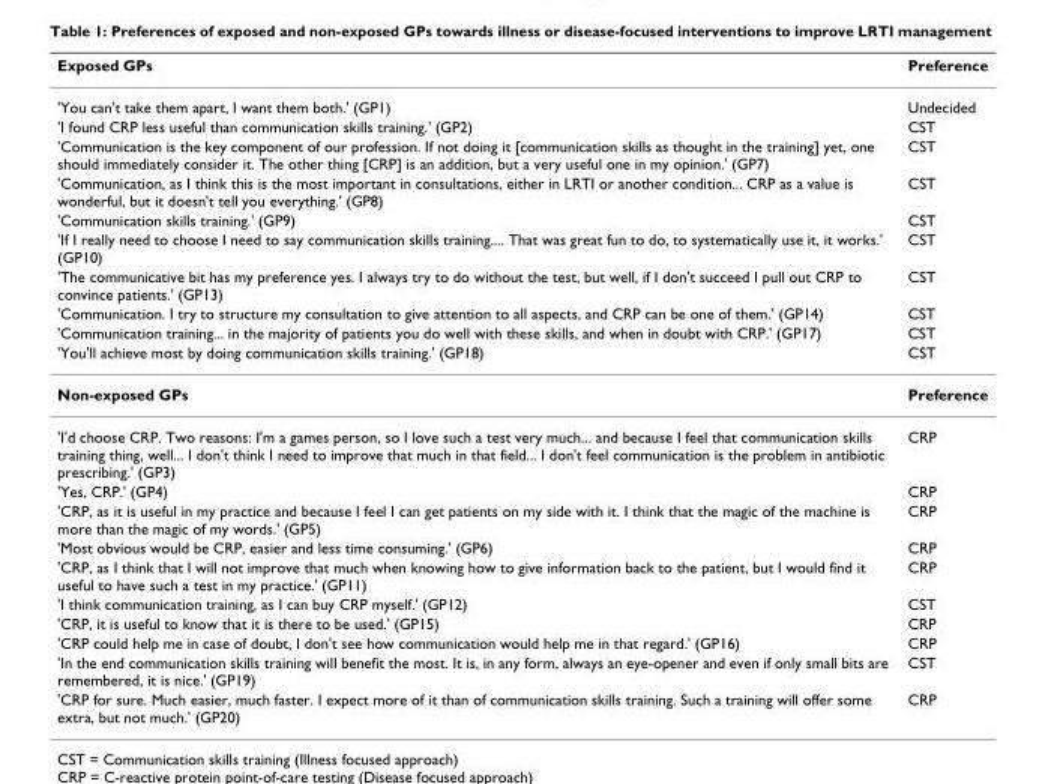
<table><thead><tr><td>Exposed GPs</td><td>Preference</td></tr></thead><tbody><tr><td>&#x27;You can&#x27;t take them apart, I want them both.&#x27; (GP1)</td><td>Undecided</td></tr><tr><td>&#x27;I found CRP less useful than communication skills training.&#x27; (GP2)</td><td>CST</td></tr><tr><td>&#x27;Communication is the key component of our profession. If not doing it [communication skills as thought in the training] yet, one should immediately consider it. The other thing [CRP] is an addition, but a very useful one in my opinion.&#x27; (GP7)</td><td>CST</td></tr><tr><td>&#x27;Communication, as I think this is the most important in consultations, either in LRTI or another condition... CRP as a value is wonderful, but it doesn&#x27;t tell you everything.&#x27; (GP8)</td><td>CST</td></tr><tr><td>&#x27;Communication skills training.&#x27; (GP9)</td><td>CST</td></tr><tr><td>&#x27;If I really need to choose I need to say communication skills training.... That was great fun to do, to systematically use it, it works.&#x27; (GP10)</td><td>CST</td></tr><tr><td>&#x27;The communicative bit has my preference yes. I always try to do without the test, but well, if I don&#x27;t succeed I pull out CRP to convince patients.&#x27; (GP13)</td><td>CST</td></tr><tr><td>&#x27;Communication. I try to structure my consultation to give attention to all aspects, and CRP can be one of them.&#x27; (GP14)</td><td>CST</td></tr><tr><td>&#x27;Communication training... in the majority of patients you do well with these skills, and when in doubt with CRP.&#x27; (GP17)</td><td>CST</td></tr><tr><td>&#x27;You&#x27;ll achieve most by doing communication skills training.&#x27; (GP18)</td><td>CST</td></tr><tr><td>Non-exposed GPs</td><td>Preference</td></tr><tr><td>&#x27;I&#x27;d choose CRP. Two reasons: I&#x27;m a games person, so I love such a test very much... and because I feel that communication skills training thing, well... I don&#x27;t think I need to improve that much in that field... I don&#x27;t feel communication is the problem in antibiotic prescribing.&#x27; (GP3)</td><td>CRP</td></tr><tr><td>&#x27;Yes, CRP.&#x27; (GP4)</td><td>CRP</td></tr><tr><td>&#x27;CRP, as it is useful in my practice and because I feel I can get patients on my side with it. I think that the magic of the machine is more than the magic of my words.&#x27; (GP5)</td><td>CRP</td></tr><tr><td>&#x27;Most obvious would be CRP, easier and less time consuming.&#x27; (GP6)</td><td>CRP</td></tr><tr><td>&#x27;CRP, as I think that I will not improve that much when knowing how to give information back to the patient, but I would find it useful to have such a test in my practice.&#x27; (GP11)</td><td>CRP</td></tr><tr><td>&#x27;I think communication training, as I can buy CRP myself.&#x27; (GP12)</td><td>CST</td></tr><tr><td>&#x27;CRP, it is useful to know that it is there to be used.&#x27; (GP15)</td><td>CRP</td></tr><tr><td>&#x27;CRP could help me in case of doubt, I don&#x27;t see how communication would help me in that regard.&#x27; (GP16)</td><td>CRP</td></tr><tr><td>&#x27;In the end communication skills training will benefit the most. It is, in any form, always an eye-opener and even if only small bits are remembered, it is nice.&#x27; (GP19)</td><td>CST</td></tr><tr><td>&#x27;CRP for sure. Much easier, much faster. I expect more of it than of communication skills training. Such a training will offer some extra, but not much.&#x27; (GP20)</td><td>CRP</td></tr></tbody></table>